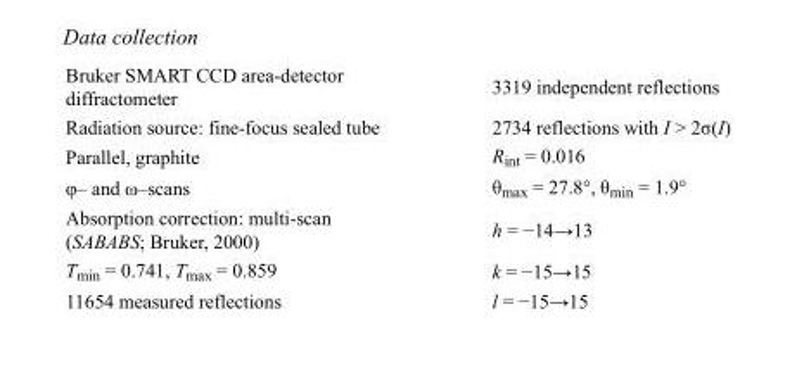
<table><tbody><tr><td>Bruker SMART CCD area-detector diffractometer</td><td>3319 independent reflections</td></tr><tr><td>Radiation source: fine-focus sealed tube</td><td>2734 reflections with I &gt; 2σ(I)</td></tr><tr><td>Parallel, graphite</td><td>R<sub>int</sub> = 0.016</td></tr><tr><td>φ– and ω–scans</td><td>θ<sub>max</sub> = 27.8°, θ<sub>min</sub> = 1.9°</td></tr><tr><td>Absorption correction: multi-scan (SABABS; Bruker, 2000)</td><td>h = −14→13</td></tr><tr><td>T<sub>min</sub> = 0.741, T<sub>max</sub> = 0.859</td><td>k = −15→15</td></tr><tr><td>11654 measured reflections</td><td>l = −15→15</td></tr></tbody></table>